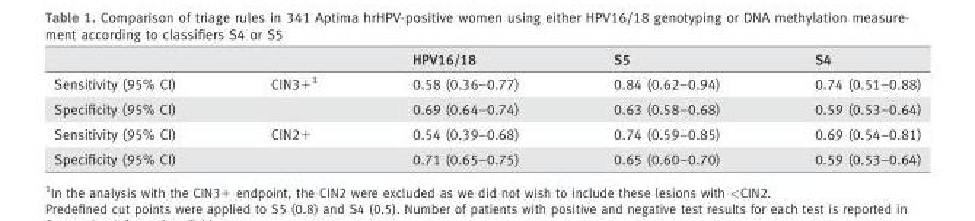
<table><thead><tr><td></td><td></td><td>HPV16/18</td><td>S5</td><td>S4</td></tr></thead><tbody><tr><td>Sensitivity (95% CI)</td><td>CIN311</td><td>0.58 (0.36–0.77)</td><td>0.84 (0.62–0.94)</td><td>0.74 (0.51–0.88)</td></tr><tr><td>Specificity (95% CI)</td><td></td><td>0.69 (0.64–0.74)</td><td>0.63 (0.58–0.68)</td><td>0.59 (0.53–0.64)</td></tr><tr><td>Sensitivity (95% CI)</td><td>CIN2+</td><td>0.54 (0.39–0.68)</td><td>0.74 (0.59–0.85)</td><td>0.69 (0.54–0.81)</td></tr><tr><td>Specificity (95% CI)</td><td></td><td>0.71 (0.65–0.75)</td><td>0.65 (0.60–0.70)</td><td>0.59 (0.53–0.64)</td></tr></tbody></table>